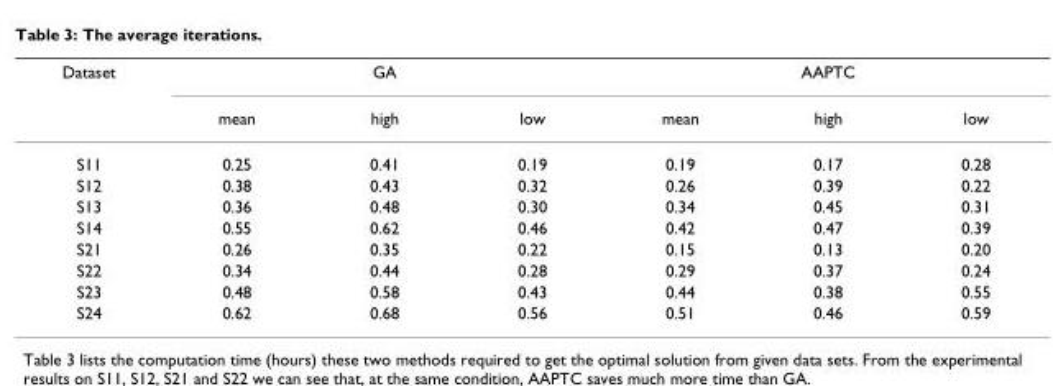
<table><thead><tr><td rowspan="2">Dataset</td><td colspan="3">GA</td><td colspan="3">AAPTC</td></tr><tr><td>mean</td><td>high</td><td>low</td><td>mean</td><td>high</td><td>low</td></tr></thead><tbody><tr><td>S11</td><td>0.25</td><td>0.41</td><td>0.19</td><td>0.19</td><td>0.17</td><td>0.28</td></tr><tr><td>S12</td><td>0.38</td><td>0.43</td><td>0.32</td><td>0.26</td><td>0.39</td><td>0.22</td></tr><tr><td>S13</td><td>0.36</td><td>0.48</td><td>0.30</td><td>0.34</td><td>0.45</td><td>0.31</td></tr><tr><td>S14</td><td>0.55</td><td>0.62</td><td>0.46</td><td>0.42</td><td>0.47</td><td>0.39</td></tr><tr><td>S21</td><td>0.26</td><td>0.35</td><td>0.22</td><td>0.15</td><td>0.13</td><td>0.20</td></tr><tr><td>S22</td><td>0.34</td><td>0.44</td><td>0.28</td><td>0.29</td><td>0.37</td><td>0.24</td></tr><tr><td>S23</td><td>0.48</td><td>0.58</td><td>0.43</td><td>0.44</td><td>0.38</td><td>0.55</td></tr><tr><td>S24</td><td>0.62</td><td>0.68</td><td>0.56</td><td>0.51</td><td>0.46</td><td>0.59</td></tr></tbody></table>